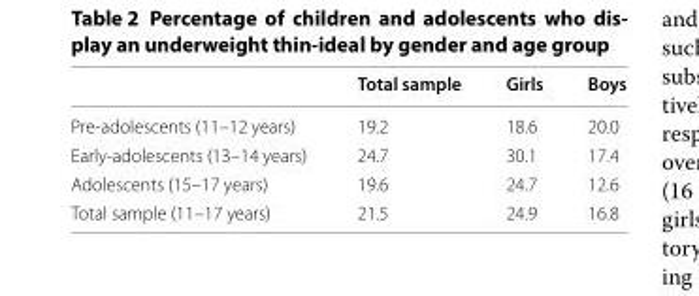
<table><thead><tr><td></td><td>Total sample</td><td>Girls</td><td>Boys</td></tr></thead><tbody><tr><td>Pre-adolescents (11–12 years)</td><td>19.2</td><td>18.6</td><td>20.0</td></tr><tr><td>Early-adolescents (13–14 years)</td><td>24.7</td><td>30.1</td><td>17.4</td></tr><tr><td>Adolescents (15–17 years)</td><td>19.6</td><td>24.7</td><td>12.6</td></tr><tr><td>Total sample (11–17 years)</td><td>21.5</td><td>24.9</td><td>16.8</td></tr></tbody></table>